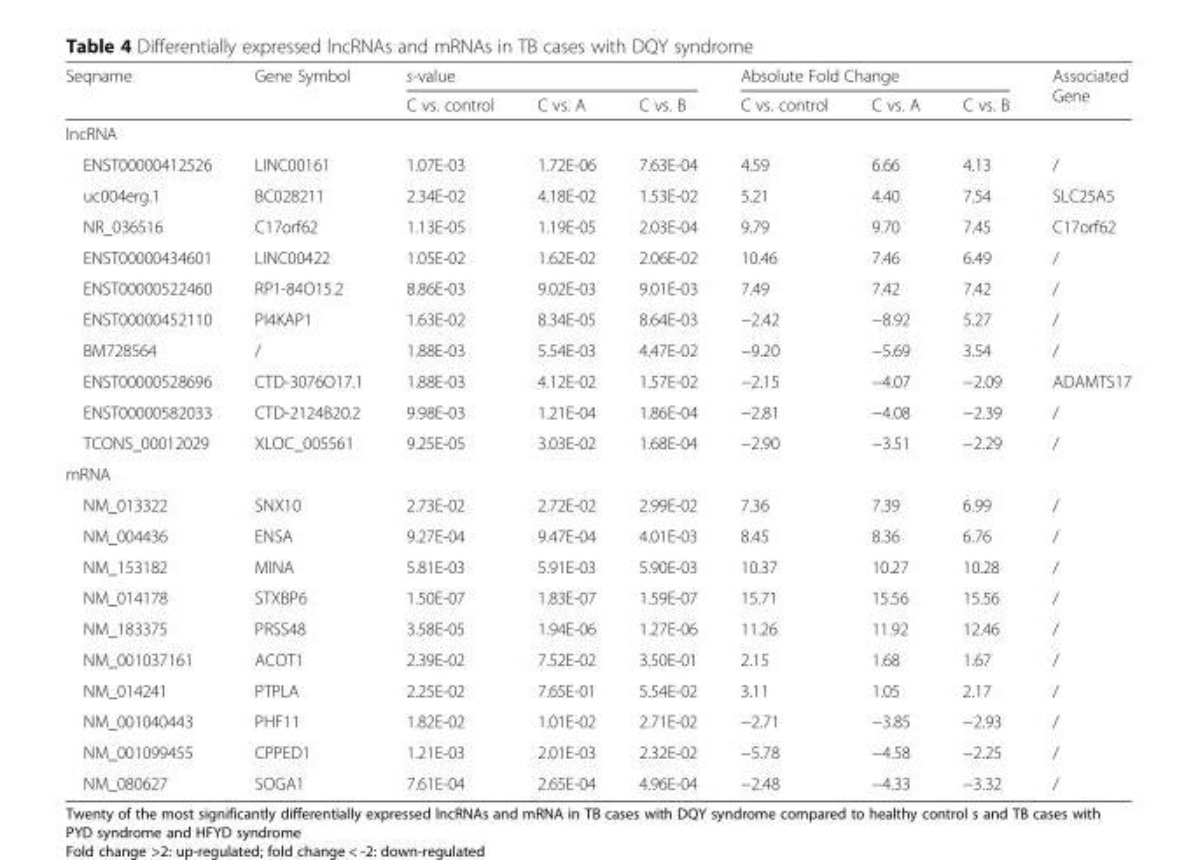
<table><thead><tr><td rowspan="2">Seqname</td><td rowspan="2">Gene Symbol</td><td colspan="3">s-value</td><td colspan="3">Absolute Fold Change</td><td rowspan="2">Associated Gene</td></tr><tr><td>C vs. control</td><td>C vs. A</td><td>C vs. B</td><td>C vs. control</td><td>C vs. A</td><td>C vs. B</td></tr></thead><tbody><tr><td colspan="9">lncRNA</td></tr><tr><td>ENST00000412526</td><td>LINC00161</td><td>1.07E-03</td><td>1.72E-06</td><td>7.63E-04</td><td>4.59</td><td>6.66</td><td>4.13</td><td>/</td></tr><tr><td>uc004erg.1</td><td>BC028211</td><td>2.34E-02</td><td>4.18E-02</td><td>1.53E-02</td><td>5.21</td><td>4.40</td><td>7.54</td><td>SLC25A5</td></tr><tr><td>NR_036516</td><td>C17orf62</td><td>1.13E-05</td><td>1.19E-05</td><td>2.03E-04</td><td>9.79</td><td>9.70</td><td>7.45</td><td>C17orf62</td></tr><tr><td>ENST00000434601</td><td>LINC00422</td><td>1.05E-02</td><td>1.62E-02</td><td>2.06E-02</td><td>10.46</td><td>7.46</td><td>6.49</td><td>/</td></tr><tr><td>ENST00000522460</td><td>RP1-84O15.2</td><td>8.86E-03</td><td>9.02E-03</td><td>9.01E-03</td><td>7.49</td><td>7.42</td><td>7.42</td><td>/</td></tr><tr><td>ENST00000452110</td><td>PI4KAP1</td><td>1.63E-02</td><td>8.34E-05</td><td>8.64E-03</td><td>−2.42</td><td>−8.92</td><td>5.27</td><td>/</td></tr><tr><td>BM728564</td><td>/</td><td>1.88E-03</td><td>5.54E-03</td><td>4.47E-02</td><td>−9.20</td><td>−5.69</td><td>3.54</td><td>/</td></tr><tr><td>ENST00000528696</td><td>CTD-3076O17.1</td><td>1.88E-03</td><td>4.12E-02</td><td>1.57E-02</td><td>−2.15</td><td>−4.07</td><td>−2.09</td><td>ADAMTS17</td></tr><tr><td>ENST00000582033</td><td>CTD-2124B20.2</td><td>9.98E-03</td><td>1.21E-04</td><td>1.86E-04</td><td>−2.81</td><td>−4.08</td><td>−2.39</td><td>/</td></tr><tr><td>TCONS_00012029</td><td>XLOC_005561</td><td>9.25E-05</td><td>3.03E-02</td><td>1.68E-04</td><td>−2.90</td><td>−3.51</td><td>−2.29</td><td>/</td></tr><tr><td colspan="9">mRNA</td></tr><tr><td>NM_013322</td><td>SNX10</td><td>2.73E-02</td><td>2.72E-02</td><td>2.99E-02</td><td>7.36</td><td>7.39</td><td>6.99</td><td>/</td></tr><tr><td>NM_004436</td><td>ENSA</td><td>9.27E-04</td><td>9.47E-04</td><td>4.01E-03</td><td>8.45</td><td>8.36</td><td>6.76</td><td>/</td></tr><tr><td>NM_153182</td><td>MINA</td><td>5.81E-03</td><td>5.91E-03</td><td>5.90E-03</td><td>10.37</td><td>10.27</td><td>10.28</td><td>/</td></tr><tr><td>NM_014178</td><td>STXBP6</td><td>1.50E-07</td><td>1.83E-07</td><td>1.59E-07</td><td>15.71</td><td>15.56</td><td>15.56</td><td>/</td></tr><tr><td>NM_183375</td><td>PRSS48</td><td>3.58E-05</td><td>1.94E-06</td><td>1.27E-06</td><td>11.26</td><td>11.92</td><td>12.46</td><td>/</td></tr><tr><td>NM_001037161</td><td>ACOT1</td><td>2.39E-02</td><td>7.52E-02</td><td>3.50E-01</td><td>2.15</td><td>1.68</td><td>1.67</td><td>/</td></tr><tr><td>NM_014241</td><td>PTPLA</td><td>2.25E-02</td><td>7.65E-01</td><td>5.54E-02</td><td>3.11</td><td>1.05</td><td>2.17</td><td>/</td></tr><tr><td>NM_001040443</td><td>PHF11</td><td>1.82E-02</td><td>1.01E-02</td><td>2.71E-02</td><td>−2.71</td><td>−3.85</td><td>−2.93</td><td>/</td></tr><tr><td>NM_001099455</td><td>CPPED1</td><td>1.21E-03</td><td>2.01E-03</td><td>2.32E-02</td><td>−5.78</td><td>−4.58</td><td>−2.25</td><td>/</td></tr><tr><td>NM_080627</td><td>SOGA1</td><td>7.61E-04</td><td>2.65E-04</td><td>4.96E-04</td><td>−2.48</td><td>−4.33</td><td>−3.32</td><td>/</td></tr></tbody></table>